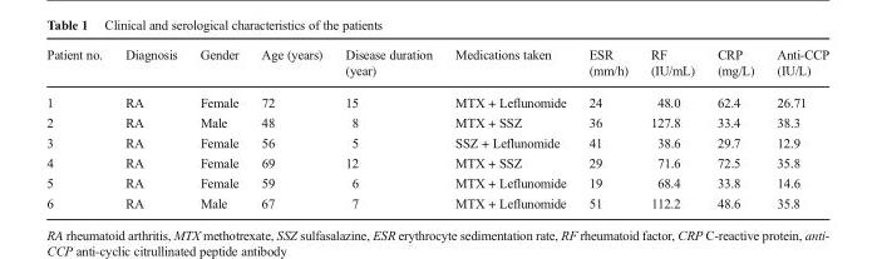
<table><thead><tr><td>Patient no.</td><td>Diagnosis</td><td>Gender</td><td>Age (years)</td><td>Disease duration (year)</td><td>Medications taken</td><td>ESR (mm/h)</td><td>RF (IU/mL)</td><td>CRP (mg/L)</td><td>Anti-CCP (IU/L)</td></tr></thead><tbody><tr><td>1</td><td>RA</td><td>Female</td><td>72</td><td>15</td><td>MTX + Leflunomide</td><td>24</td><td>48.0</td><td>62.4</td><td>26.71</td></tr><tr><td>2</td><td>RA</td><td>Male</td><td>48</td><td>8</td><td>MTX + SSZ</td><td>36</td><td>127.8</td><td>33.4</td><td>38.3</td></tr><tr><td>3</td><td>RA</td><td>Female</td><td>56</td><td>5</td><td>SSZ + Leflunomide</td><td>41</td><td>38.6</td><td>29.7</td><td>12.9</td></tr><tr><td>4</td><td>RA</td><td>Female</td><td>69</td><td>12</td><td>MTX + SSZ</td><td>29</td><td>71.6</td><td>72.5</td><td>35.8</td></tr><tr><td>5</td><td>RA</td><td>Female</td><td>59</td><td>6</td><td>MTX + Leflunomide</td><td>19</td><td>68.4</td><td>33.8</td><td>14.6</td></tr><tr><td>6</td><td>RA</td><td>Male</td><td>67</td><td>7</td><td>MTX + Leflunomide</td><td>51</td><td>112.2</td><td>48.6</td><td>35.8</td></tr></tbody></table>